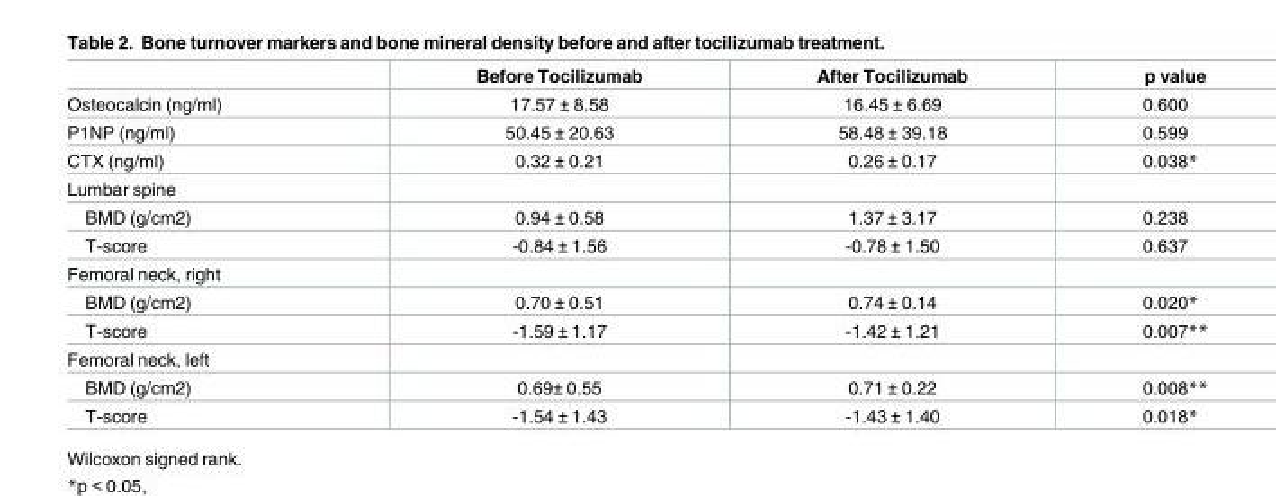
<table><thead><tr><td></td><td>Before Tocilizumab</td><td>After Tocilizumab</td><td>p value</td></tr></thead><tbody><tr><td>Osteocalcin (ng/ml)</td><td>17.57 ± 8.58</td><td>16.45 ± 6.69</td><td>0.600</td></tr><tr><td>P1NP (ng/ml)</td><td>50.45 ± 20.63</td><td>58.48 ± 39.18</td><td>0.599</td></tr><tr><td>CTX (ng/ml)</td><td>0.32 ± 0.21</td><td>0.26 ± 0.17</td><td>0.038*</td></tr><tr><td colspan="4">Lumbar spine</td></tr><tr><td>BMD (g/cm2)</td><td>0.94 ± 0.58</td><td>1.37 ± 3.17</td><td>0.238</td></tr><tr><td>T-score</td><td>-0.84 ± 1.56</td><td>-0.78 ± 1.50</td><td>0.637</td></tr><tr><td colspan="4">Femoral neck, right</td></tr><tr><td>BMD (g/cm2)</td><td>0.70 ± 0.51</td><td>0.74 ± 0.14</td><td>0.020*</td></tr><tr><td>T-score</td><td>-1.59 ± 1.17</td><td>-1.42 ± 1.21</td><td>0.007**</td></tr><tr><td colspan="4">Femoral neck, left</td></tr><tr><td>BMD (g/cm2)</td><td>0.69± 0.55</td><td>0.71 ± 0.22</td><td>0.008**</td></tr><tr><td>T-score</td><td>-1.54 ± 1.43</td><td>-1.43 ± 1.40</td><td>0.018*</td></tr></tbody></table>